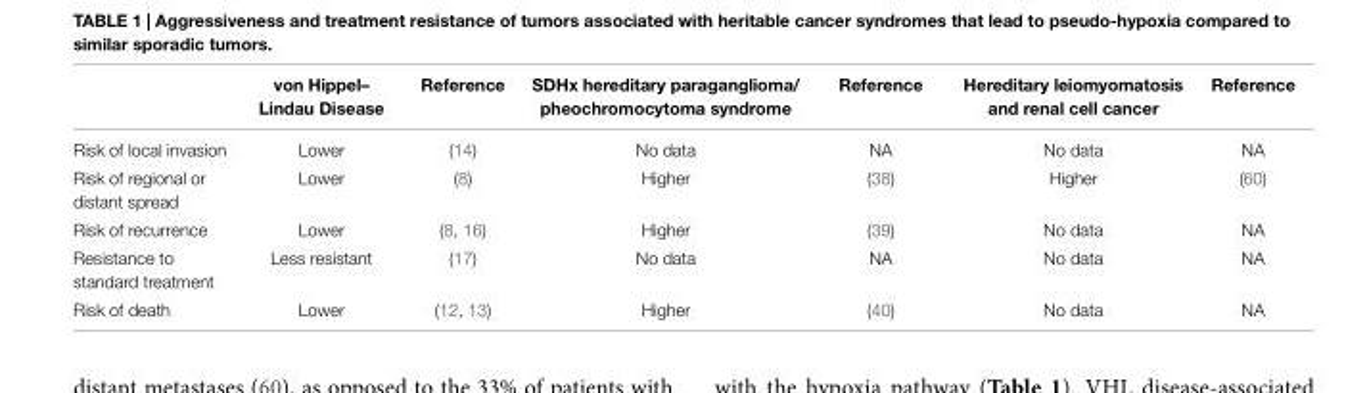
<table><thead><tr><td></td><td>von Hippel– Lindau Disease</td><td>Reference</td><td>SDHx hereditary paraganglioma/ pheochromocytoma syndrome</td><td>Reference</td><td>Hereditary leiomyomatosis and renal cell cancer</td><td>Reference</td></tr></thead><tbody><tr><td>Risk of local invasion</td><td>Lower</td><td>(14)</td><td>No data</td><td>NA</td><td>No data</td><td>NA</td></tr><tr><td>Risk of regional or distant spread</td><td>Lower</td><td>(8)</td><td>Higher</td><td>(38)</td><td>Higher</td><td>(60)</td></tr><tr><td>Risk of recurrence</td><td>Lower</td><td>(8, 16)</td><td>Higher</td><td>(39)</td><td>No data</td><td>NA</td></tr><tr><td>Resistance to standard treatment</td><td>Less resistant</td><td>(17)</td><td>No data</td><td>NA</td><td>No data</td><td>NA</td></tr><tr><td>Risk of death</td><td>Lower</td><td>(12, 13)</td><td>Higher</td><td>(40)</td><td>No data</td><td>NA</td></tr></tbody></table>